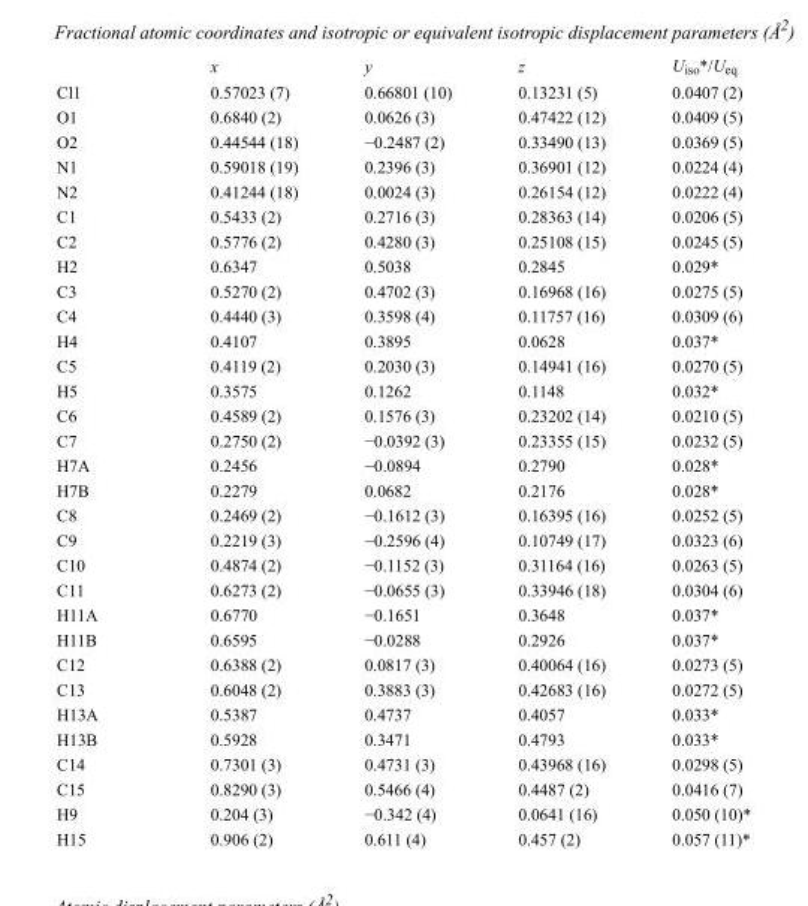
<table><thead><tr><td></td><td>x</td><td>y</td><td>z</td><td>U<sub>iso</sub>*/U<sub>eq</sub></td></tr></thead><tbody><tr><td>Cl1</td><td>0.57023 (7)</td><td>0.66801 (10)</td><td>0.13231 (5)</td><td>0.0407 (2)</td></tr><tr><td>O1</td><td>0.6840 (2)</td><td>0.0626 (3)</td><td>0.47422 (12)</td><td>0.0409 (5)</td></tr><tr><td>O2</td><td>0.44544 (18)</td><td>−0.2487 (2)</td><td>0.33490 (13)</td><td>0.0369 (5)</td></tr><tr><td>N1</td><td>0.59018 (19)</td><td>0.2396 (3)</td><td>0.36901 (12)</td><td>0.0224 (4)</td></tr><tr><td>N2</td><td>0.41244 (18)</td><td>0.0024 (3)</td><td>0.26154 (12)</td><td>0.0222 (4)</td></tr><tr><td>C1</td><td>0.5433 (2)</td><td>0.2716 (3)</td><td>0.28363 (14)</td><td>0.0206 (5)</td></tr><tr><td>C2</td><td>0.5776 (2)</td><td>0.4280 (3)</td><td>0.25108 (15)</td><td>0.0245 (5)</td></tr><tr><td>H2</td><td>0.6347</td><td>0.5038</td><td>0.2845</td><td>0.029*</td></tr><tr><td>C3</td><td>0.5270 (2)</td><td>0.4702 (3)</td><td>0.16968 (16)</td><td>0.0275 (5)</td></tr><tr><td>C4</td><td>0.4440 (3)</td><td>0.3598 (4)</td><td>0.11757 (16)</td><td>0.0309 (6)</td></tr><tr><td>H4</td><td>0.4107</td><td>0.3895</td><td>0.0628</td><td>0.037*</td></tr><tr><td>C5</td><td>0.4119 (2)</td><td>0.2030 (3)</td><td>0.14941 (16)</td><td>0.0270 (5)</td></tr><tr><td>H5</td><td>0.3575</td><td>0.1262</td><td>0.1148</td><td>0.032*</td></tr><tr><td>C6</td><td>0.4589 (2)</td><td>0.1576 (3)</td><td>0.23202 (14)</td><td>0.0210 (5)</td></tr><tr><td>C7</td><td>0.2750 (2)</td><td>−0.0392 (3)</td><td>0.23355 (15)</td><td>0.0232 (5)</td></tr><tr><td>H7A</td><td>0.2456</td><td>−0.0894</td><td>0.2790</td><td>0.028*</td></tr><tr><td>H7B</td><td>0.2279</td><td>0.0682</td><td>0.2176</td><td>0.028*</td></tr><tr><td>C8</td><td>0.2469 (2)</td><td>−0.1612 (3)</td><td>0.16395 (16)</td><td>0.0252 (5)</td></tr><tr><td>C9</td><td>0.2219 (3)</td><td>−0.2596 (4)</td><td>0.10749 (17)</td><td>0.0323 (6)</td></tr><tr><td>C10</td><td>0.4874 (2)</td><td>−0.1152 (3)</td><td>0.31164 (16)</td><td>0.0263 (5)</td></tr><tr><td>C11</td><td>0.6273 (2)</td><td>−0.0655 (3)</td><td>0.33946 (18)</td><td>0.0304 (6)</td></tr><tr><td>H11A</td><td>0.6770</td><td>−0.1651</td><td>0.3648</td><td>0.037*</td></tr><tr><td>H11B</td><td>0.6595</td><td>−0.0288</td><td>0.2926</td><td>0.037*</td></tr><tr><td>C12</td><td>0.6388 (2)</td><td>0.0817 (3)</td><td>0.40064 (16)</td><td>0.0273 (5)</td></tr><tr><td>C13</td><td>0.6048 (2)</td><td>0.3883 (3)</td><td>0.42683 (16)</td><td>0.0272 (5)</td></tr><tr><td>H13A</td><td>0.5387</td><td>0.4737</td><td>0.4057</td><td>0.033*</td></tr><tr><td>H13B</td><td>0.5928</td><td>0.3471</td><td>0.4793</td><td>0.033*</td></tr><tr><td>C14</td><td>0.7301 (3)</td><td>0.4731 (3)</td><td>0.43968 (16)</td><td>0.0298 (5)</td></tr><tr><td>C15</td><td>0.8290 (3)</td><td>0.5466 (4)</td><td>0.4487 (2)</td><td>0.0416 (7)</td></tr><tr><td>H9</td><td>0.204 (3)</td><td>−0.342 (4)</td><td>0.0641 (16)</td><td>0.050 (10)*</td></tr><tr><td>H15</td><td>0.906 (2)</td><td>0.611 (4)</td><td>0.457 (2)</td><td>0.057 (11)*</td></tr></tbody></table>